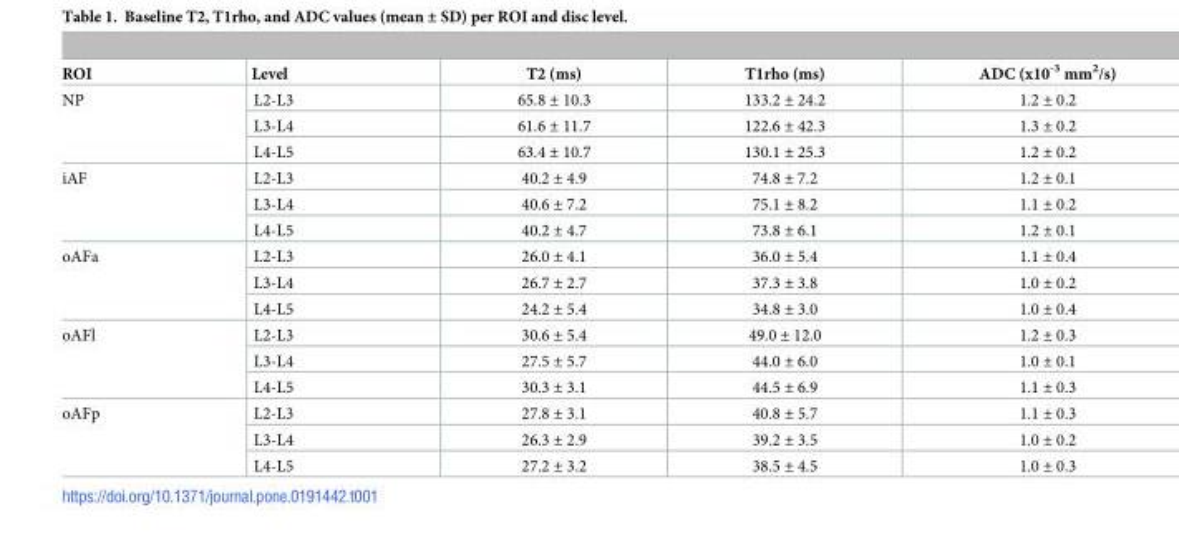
<table><thead><tr><td>ROI</td><td>Level</td><td>T2 (ms)</td><td>T1rho (ms)</td><td>ADC (x10<sup>-3</sup> mm<sup>2</sup>/s)</td></tr></thead><tbody><tr><td rowspan="3">NP</td><td>L2-L3</td><td>65.8 ± 10.3</td><td>133.2 ± 24.2</td><td>1.2 ± 0.2</td></tr><tr><td>L3-L4</td><td>61.6 ± 11.7</td><td>122.6 ± 42.3</td><td>1.3 ± 0.2</td></tr><tr><td>L4-L5</td><td>63.4 ± 10.7</td><td>130.1 ± 25.3</td><td>1.2 ± 0.2</td></tr><tr><td rowspan="3">iAF</td><td>L2-L3</td><td>40.2 ± 4.9</td><td>74.8 ± 7.2</td><td>1.2 ± 0.1</td></tr><tr><td>L3-L4</td><td>40.6 ± 7.2</td><td>75.1 ± 8.2</td><td>1.1 ± 0.2</td></tr><tr><td>L4-L5</td><td>40.2 ± 4.7</td><td>73.8 ± 6.1</td><td>1.2 ± 0.1</td></tr><tr><td rowspan="3">oAFa</td><td>L2-L3</td><td>26.0 ± 4.1</td><td>36.0 ± 5.4</td><td>1.1 ± 0.4</td></tr><tr><td>L3-L4</td><td>26.7 ± 2.7</td><td>37.3 ± 3.8</td><td>1.0 ± 0.2</td></tr><tr><td>L4-L5</td><td>24.2 ± 5.4</td><td>34.8 ± 3.0</td><td>1.0 ± 0.4</td></tr><tr><td rowspan="3">oAFl</td><td>L2-L3</td><td>30.6 ± 5.4</td><td>49.0 ± 12.0</td><td>1.2 ± 0.3</td></tr><tr><td>L3-L4</td><td>27.5 ± 5.7</td><td>44.0 ± 6.0</td><td>1.0 ± 0.1</td></tr><tr><td>L4-L5</td><td>30.3 ± 3.1</td><td>44.5 ± 6.9</td><td>1.1 ± 0.3</td></tr><tr><td rowspan="3">oAFp</td><td>L2-L3</td><td>27.8 ± 3.1</td><td>40.8 ± 5.7</td><td>1.1 ± 0.3</td></tr><tr><td>L3-L4</td><td>26.3 ± 2.9</td><td>39.2 ± 3.5</td><td>1.0 ± 0.2</td></tr><tr><td>L4-L5</td><td>27.2 ± 3.2</td><td>38.5 ± 4.5</td><td>1.0 ± 0.3</td></tr></tbody></table>